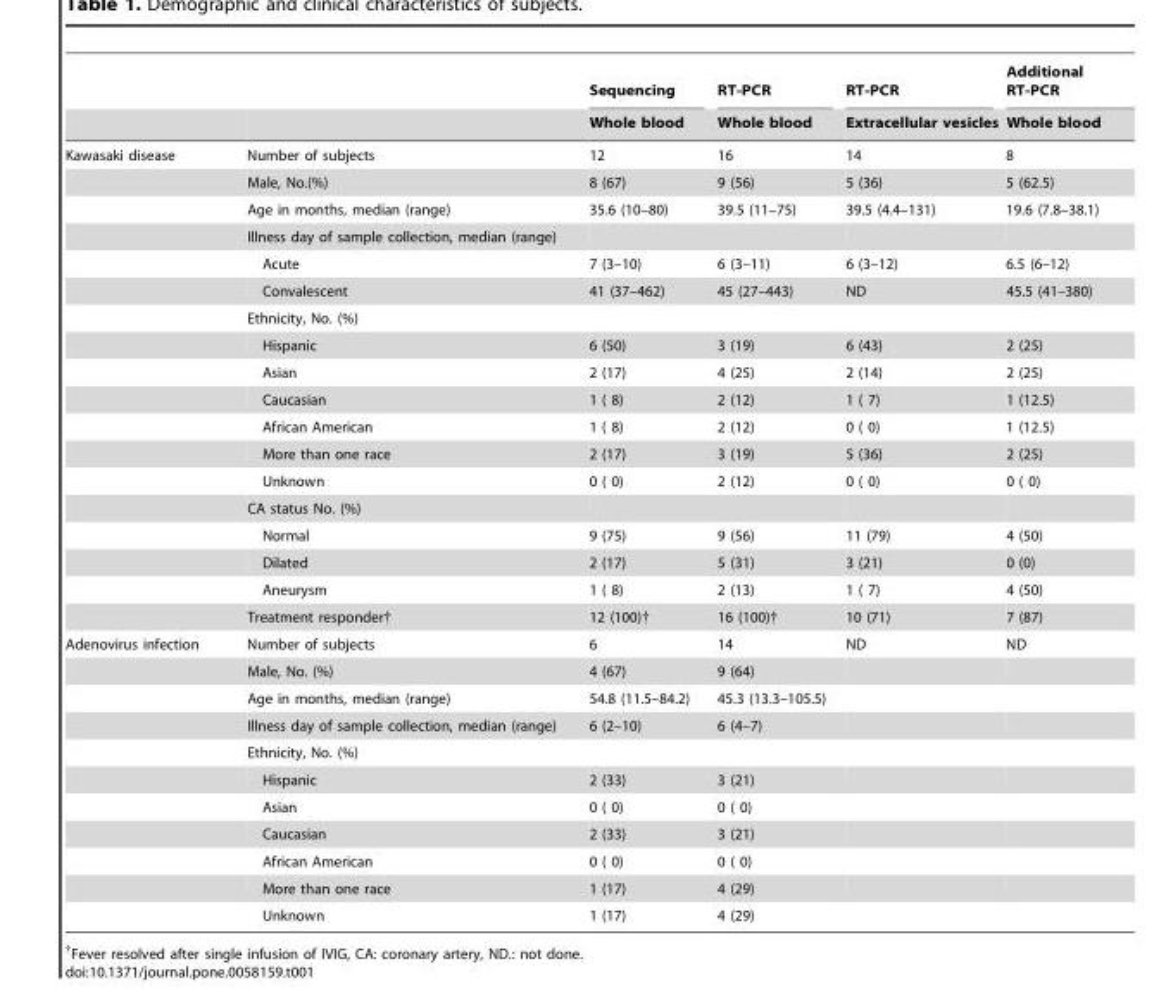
<table><thead><tr><td rowspan="2"></td><td rowspan="2"></td><td rowspan="2">Sequencing Whole blood</td><td rowspan="2">RT-PCR Whole blood</td><td rowspan="2">RT-PCR Extracellular vesicles</td><td rowspan="2">Additional RT-PCR Whole blood</td></tr><tr></tr></thead><tbody><tr><td rowspan="18">Kawasaki disease</td><td>Number of subjects</td><td>12</td><td>16</td><td>14</td><td>8</td></tr><tr><td>Male, No.(%)</td><td>8 (67)</td><td>9 (56)</td><td>5 (36)</td><td>5 (62.5)</td></tr><tr><td>Age in months, median (range)</td><td>35.6 (10–80)</td><td>39.5 (11–75)</td><td>39.5 (4.4–131)</td><td>19.6 (7.8–38.1)</td></tr><tr><td>Illness day of sample collection, median (range)</td><td></td><td></td><td></td><td></td></tr><tr><td>Acute</td><td>7 (3–10)</td><td>6 (3–11)</td><td>6 (3–12)</td><td>6.5 (6–12)</td></tr><tr><td>Convalescent</td><td>41 (37–462)</td><td>45 (27–443)</td><td>ND</td><td>45.5 (41–380)</td></tr><tr><td>Ethnicity, No. (%)</td><td></td><td></td><td></td><td></td></tr><tr><td>Hispanic</td><td>6 (50)</td><td>3 (19)</td><td>6 (43)</td><td>2 (25)</td></tr><tr><td>Asian</td><td>2 (17)</td><td>4 (25)</td><td>2 (14)</td><td>2 (25)</td></tr><tr><td>Caucasian</td><td>1 ( 8)</td><td>2 (12)</td><td>1 ( 7)</td><td>1 (12.5)</td></tr><tr><td>African American</td><td>1 ( 8)</td><td>2 (12)</td><td>0 ( 0)</td><td>1 (12.5)</td></tr><tr><td>More than one race</td><td>2 (17)</td><td>3 (19)</td><td>5 (36)</td><td>2 (25)</td></tr><tr><td>Unknown</td><td>0 ( 0)</td><td>2 (12)</td><td>0 ( 0)</td><td>0 ( 0)</td></tr><tr><td>CA status No. (%)</td><td></td><td></td><td></td><td></td></tr><tr><td>Normal</td><td>9 (75)</td><td>9 (56)</td><td>11 (79)</td><td>4 (50)</td></tr><tr><td>Dilated</td><td>2 (17)</td><td>5 (31)</td><td>3 (21)</td><td>0 (0)</td></tr><tr><td>Aneurysm</td><td>1 ( 8)</td><td>2 (13)</td><td>1 ( 7)</td><td>4 (50)</td></tr><tr><td>Treatment responder†</td><td>12 (100)†</td><td>16 (100)†</td><td>10 (71)</td><td>7 (87)</td></tr><tr><td rowspan="11">Adenovirus infection</td><td>Number of subjects</td><td>6</td><td>14</td><td>ND</td><td>ND</td></tr><tr><td>Male, No. (%)</td><td>4 (67)</td><td>9 (64)</td><td></td><td></td></tr><tr><td>Age in months, median (range)</td><td>54.8 (11.5–84.2)</td><td>45.3 (13.3–105.5)</td><td></td><td></td></tr><tr><td>Illness day of sample collection, median (range)</td><td>6 (2–10)</td><td>6 (4–7)</td><td></td><td></td></tr><tr><td>Ethnicity, No. (%)</td><td></td><td></td><td></td><td></td></tr><tr><td>Hispanic</td><td>2 (33)</td><td>3 (21)</td><td></td><td></td></tr><tr><td>Asian</td><td>0 ( 0)</td><td>0 ( 0)</td><td></td><td></td></tr><tr><td>Caucasian</td><td>2 (33)</td><td>3 (21)</td><td></td><td></td></tr><tr><td>African American</td><td>0 ( 0)</td><td>0 ( 0)</td><td></td><td></td></tr><tr><td>More than one race</td><td>1 (17)</td><td>4 (29)</td><td></td><td></td></tr><tr><td>Unknown</td><td>1 (17)</td><td>4 (29)</td><td></td><td></td></tr></tbody></table>